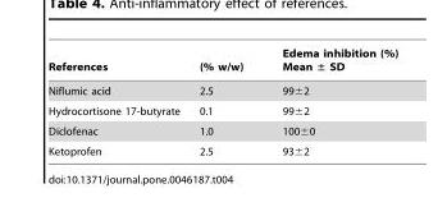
<table><thead><tr><td>References</td><td>(% w/w)</td><td>Edema inhibition (%) Mean ± SD</td></tr></thead><tbody><tr><td>Niflumic acid</td><td>2.5</td><td>99±2</td></tr><tr><td>Hydrocortisone 17-butyrate</td><td>0.1</td><td>99±2</td></tr><tr><td>Diclofenac</td><td>1.0</td><td>100±0</td></tr><tr><td>Ketoprofen</td><td>2.5</td><td>93±2</td></tr></tbody></table>